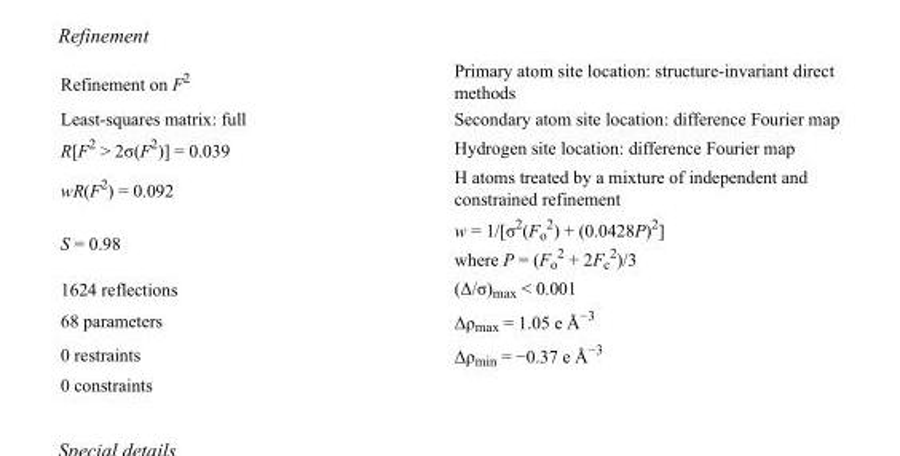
<table><tbody><tr><td>Refinement on F<sup>2</sup></td><td>Primary atom site location: structure-invariant direct methods</td></tr><tr><td>Least-squares matrix: full</td><td>Secondary atom site location: difference Fourier map</td></tr><tr><td>R[F<sup>2</sup> &gt; 2σ(F<sup>2</sup>)] = 0.039</td><td>Hydrogen site location: difference Fourier map</td></tr><tr><td>wR(F<sup>2</sup>) = 0.092</td><td>H atoms treated by a mixture of independent and constrained refinement</td></tr><tr><td>S = 0.98</td><td>w = 1/[σ<sup>2</sup>(F<sub>o</sub> <sup>2</sup>) + (0.0428P)<sup>2</sup>] where P = (F<sub>o</sub> <sup>2</sup> + 2F<sub>c</sub> <sup>2</sup>)/3</td></tr><tr><td>1624 reflections</td><td>(Δ/σ)<sub>max</sub> &lt; 0.001</td></tr><tr><td>68 parameters</td><td>Δρ<sub>max</sub> = 1.05 e Å<sup>−3</sup></td></tr><tr><td>0 restraints</td><td>Δρ<sub>min</sub> = −0.37 e Å<sup>−3</sup></td></tr><tr><td>0 constraints</td><td></td></tr></tbody></table>